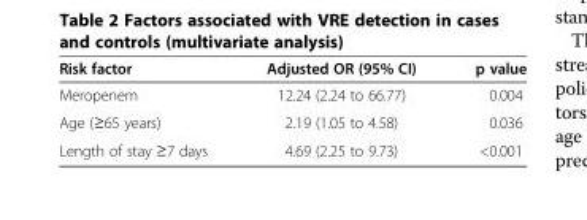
<table><thead><tr><td>Risk factor</td><td>Adjusted OR (95% CI)</td><td>p value</td></tr></thead><tbody><tr><td>Meropenem</td><td>12.24 (2.24 to 66.77)</td><td>0.004</td></tr><tr><td>Age (≥65 years)</td><td>2.19 (1.05 to 4.58)</td><td>0.036</td></tr><tr><td>Length of stay ≥7 days</td><td>4.69 (2.25 to 9.73)</td><td>&lt;0.001</td></tr></tbody></table>